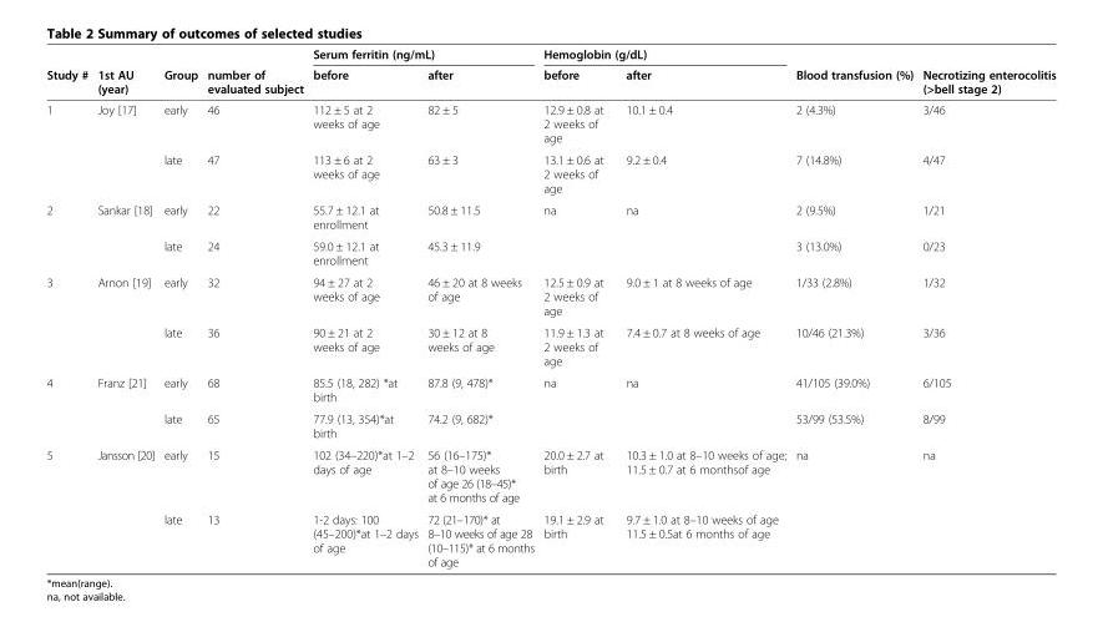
<table><thead><tr><td rowspan="2">Study #</td><td rowspan="2">1st AU (year)</td><td rowspan="2">Group</td><td rowspan="2">number of evaluated subject</td><td colspan="2">Serum ferritin (ng/mL)</td><td colspan="2">Hemoglobin (g/dL)</td><td rowspan="2">Blood transfusion (%)</td><td rowspan="2">Necrotizing enterocolitis (&gt;bell stage 2)</td></tr><tr><td>before</td><td>after</td><td>before</td><td>after</td></tr></thead><tbody><tr><td rowspan="2">1</td><td>Joy [17]</td><td>early</td><td>46</td><td>112 ± 5 at 2 weeks of age</td><td>82 ± 5</td><td>12.9 ± 0.8 at 2 weeks of age</td><td>10.1 ± 0.4</td><td>2 (4.3%)</td><td>3/46</td></tr><tr><td></td><td>late</td><td>47</td><td>113 ± 6 at 2 weeks of age</td><td>63 ± 3</td><td>13.1 ± 0.6 at 2 weeks of age</td><td>9.2 ± 0.4</td><td>7 (14.8%)</td><td>4/47</td></tr><tr><td rowspan="2">2</td><td>Sankar [18]</td><td>early</td><td>22</td><td>55.7 ± 12.1 at enrollment</td><td>50.8 ± 11.5</td><td rowspan="2">na</td><td rowspan="2">na</td><td>2 (9.5%)</td><td>1/21</td></tr><tr><td></td><td>late</td><td>24</td><td>59.0 ± 12.1 at enrollment</td><td>45.3 ± 11.9</td><td>3 (13.0%)</td><td>0/23</td></tr><tr><td rowspan="2">3</td><td>Arnon [19]</td><td>early</td><td>32</td><td>94 ± 27 at 2 weeks of age</td><td>46 ± 20 at 8 weeks of age</td><td>12.5 ± 0.9 at 2 weeks of age</td><td>9.0 ± 1 at 8 weeks of age</td><td>1/33 (2.8%)</td><td>1/32</td></tr><tr><td></td><td>late</td><td>36</td><td>90 ± 21 at 2 weeks of age</td><td>30 ± 12 at 8 weeks of age</td><td>11.9 ± 1.3 at 2 weeks of age</td><td>7.4 ± 0.7 at 8 weeks of age</td><td>10/46 (21.3%)</td><td>3/36</td></tr><tr><td rowspan="2">4</td><td>Franz [21]</td><td>early</td><td>68</td><td>85.5 (18, 282) *at birth</td><td>87.8 (9, 478)*</td><td rowspan="2">na</td><td rowspan="2">na</td><td>41/105 (39.0%)</td><td>6/105</td></tr><tr><td></td><td>late</td><td>65</td><td>77.9 (13, 354)*at birth</td><td>74.2 (9, 682)*</td><td>53/99 (53.5%)</td><td>8/99</td></tr><tr><td rowspan="2">5</td><td>Jansson [20]</td><td>early</td><td>15</td><td>102 (34–220)*at 1–2 days of age</td><td>56 (16–175)* at 8–10 weeks of age 26 (18–45)* at 6 months of age</td><td>20.0 ± 2.7 at birth</td><td>10.3 ± 1.0 at 8–10 weeks of age; 11.5 ± 0.7 at 6 monthsof age</td><td rowspan="2">na</td><td rowspan="2">na</td></tr><tr><td></td><td>late</td><td>13</td><td>1-2 days: 100 (45–200)*at 1–2 days of age</td><td>72 (21–170)* at 8–10 weeks of age 28 (10–115)* at 6 months of age</td><td>19.1 ± 2.9 at birth</td><td>9.7 ± 1.0 at 8–10 weeks of age 11.5 ± 0.5at 6 months of age</td></tr></tbody></table>